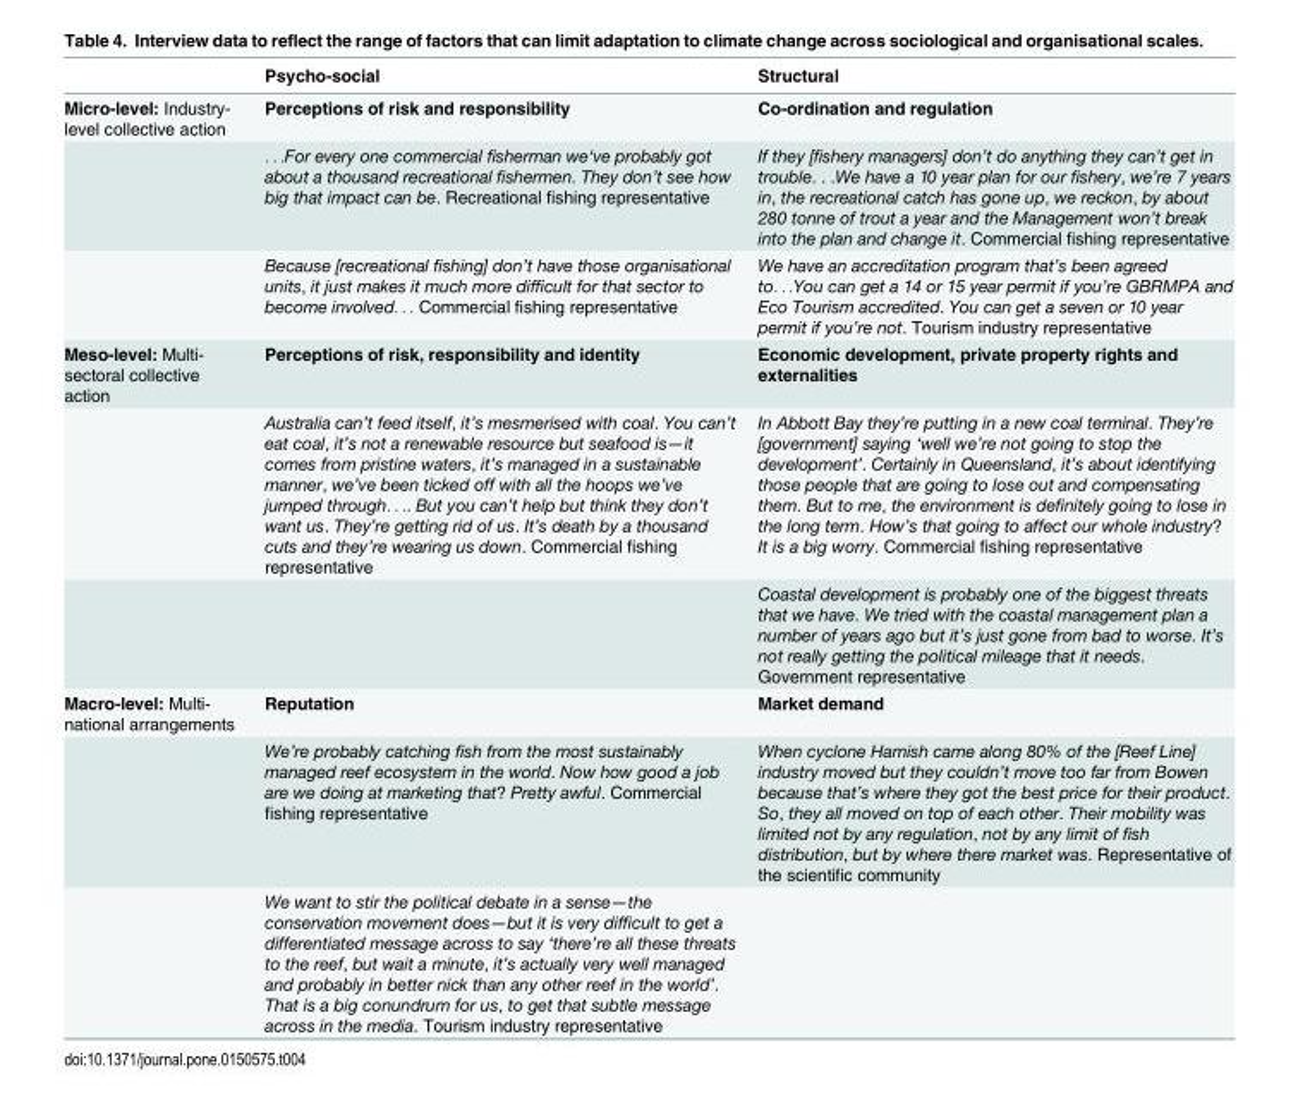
<table><thead><tr><td></td><td>Psycho-social</td><td>Structural</td></tr></thead><tbody><tr><td rowspan="3">Micro-level: Industry- level collective action</td><td>Perceptions of risk and responsibility</td><td>Co-ordination and regulation</td></tr><tr><td>. . .For every one commercial fisherman we‘ve probably got about a thousand recreational fishermen. They don’t see how big that impact can be. Recreational fishing representative</td><td>If they [fishery managers] don’t do anything they can’t get in trouble. . .We have a 10 year plan for our fishery, we’re 7 years in, the recreational catch has gone up, we reckon, by about 280 tonne of trout a year and the Management won’t break into the plan and change it. Commercial fishing representative</td></tr><tr><td>Because [recreational fishing] don’t have those organisational units, it just makes it much more difficult for that sector to become involved. . . Commercial fishing representative</td><td>We have an accreditation program that’s been agreed to. . .You can get a 14 or 15 year permit if you’re GBRMPA and Eco Tourism accredited. You can get a seven or 10 year permit if you’re not. Tourism industry representative</td></tr><tr><td rowspan="3">Meso-level: Multi- sectoral collective action</td><td>Perceptions of risk, responsibility and identity</td><td>Economic development, private property rights and externalities</td></tr><tr><td>Australia can’t feed itself, it’s mesmerised with coal. You can’t eat coal, it’s not a renewable resource but seafood is—it comes from pristine waters, it’s managed in a sustainable manner, we’ve been ticked off with all the hoops we’ve jumped through. . .. But you can’t help but think they don’t want us. They’re getting rid of us. It’s death by a thousand cuts and they’re wearing us down. Commercial fishing representative</td><td>In Abbott Bay they’re putting in a new coal terminal. They’re [government] saying ‘well we’re not going to stop the development’. Certainly in Queensland, it’s about identifying those people that are going to lose out and compensating them. But to me, the environment is definitely going to lose in the long term. How’s that going to affect our whole industry? It is a big worry. Commercial fishing representative</td></tr><tr><td></td><td>Coastal development is probably one of the biggest threats that we have. We tried with the coastal management plan a number of years ago but it’s just gone from bad to worse. It’s not really getting the political mileage that it needs. Government representative</td></tr><tr><td rowspan="3">Macro-level: Multi- national arrangements</td><td>Reputation</td><td>Market demand</td></tr><tr><td>We’re probably catching fish from the most sustainably managed reef ecosystem in the world. Now how good a job are we doing at marketing that? Pretty awful. Commercial fishing representative</td><td>When cyclone Hamish came along 80% of the [Reef Line] industry moved but they couldn’t move too far from Bowen because that’s where they got the best price for their product. So, they all moved on top of each other. Their mobility was limited not by any regulation, not by any limit of fish distribution, but by where there market was. Representative of the scientific community</td></tr><tr><td>We want to stir the political debate in a sense—the conservation movement does—but it is very difficult to get a differentiated message across to say ‘there’re all these threats to the reef, but wait a minute, it’s actually very well managed and probably in better nick than any other reef in the world’. That is a big conundrum for us, to get that subtle message across in the media. Tourism industry representative</td><td></td></tr></tbody></table>